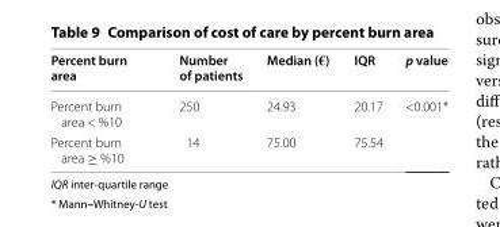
<table><thead><tr><td>Percent burn area</td><td>Number of patients</td><td>Median (€)</td><td>IQR</td><td>p value</td></tr></thead><tbody><tr><td>Percent burn area &lt; %10</td><td>250</td><td>24.93</td><td>20.17</td><td rowspan="2">&lt;0.001*</td></tr><tr><td>Percent burn area ≥ %10</td><td>14</td><td>75.00</td><td>75.54</td></tr></tbody></table>